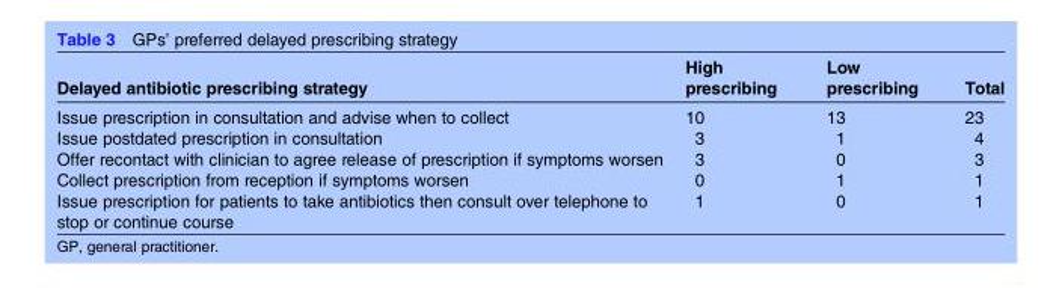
<table><thead><tr><td>Delayed antibiotic prescribing strategy</td><td>High prescribing</td><td>Low prescribing</td><td>Total</td></tr></thead><tbody><tr><td>Issue prescription in consultation and advise when to collect</td><td>10</td><td>13</td><td>23</td></tr><tr><td>Issue postdated prescription in consultation</td><td>3</td><td>1</td><td>4</td></tr><tr><td>Offer recontact with clinician to agree release of prescription if symptoms worsen</td><td>3</td><td>0</td><td>3</td></tr><tr><td>Collect prescription from reception if symptoms worsen</td><td>0</td><td>1</td><td>1</td></tr><tr><td>Issue prescription for patients to take antibiotics then consult over telephone to stop or continue course</td><td>1</td><td>0</td><td>1</td></tr></tbody></table>